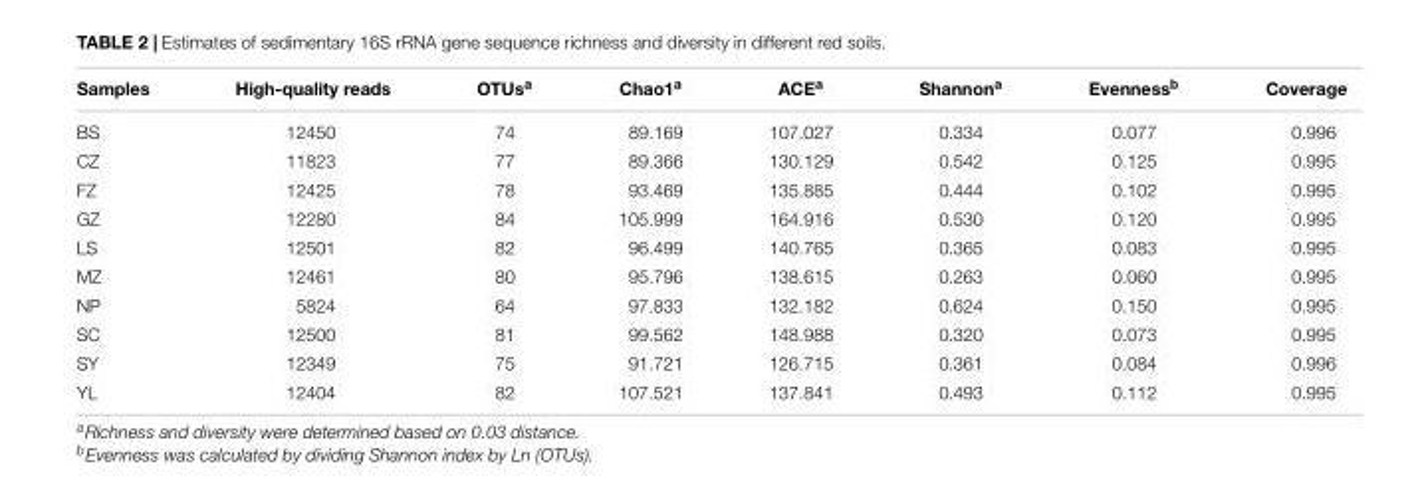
<table><thead><tr><td>Samples</td><td>High-quality reads</td><td>OTUs<sup>a</sup></td><td>Chao1<sup>a</sup></td><td>ACE<sup>a</sup></td><td>Shannon<sup>a</sup></td><td>Evenness<sup>b</sup></td><td>Coverage</td></tr></thead><tbody><tr><td>BS</td><td>12450</td><td>74</td><td>89.169</td><td>107.027</td><td>0.334</td><td>0.077</td><td>0.996</td></tr><tr><td>CZ</td><td>11823</td><td>77</td><td>89.366</td><td>130.129</td><td>0.542</td><td>0.125</td><td>0.995</td></tr><tr><td>FZ</td><td>12425</td><td>78</td><td>93.469</td><td>135.885</td><td>0.444</td><td>0.102</td><td>0.995</td></tr><tr><td>GZ</td><td>12280</td><td>84</td><td>105.999</td><td>164.916</td><td>0.530</td><td>0.120</td><td>0.995</td></tr><tr><td>LS</td><td>12501</td><td>82</td><td>96.499</td><td>140.765</td><td>0.365</td><td>0.083</td><td>0.995</td></tr><tr><td>MZ</td><td>12461</td><td>80</td><td>95.796</td><td>138.615</td><td>0.263</td><td>0.060</td><td>0.995</td></tr><tr><td>NP</td><td>5824</td><td>64</td><td>97.833</td><td>132.182</td><td>0.624</td><td>0.150</td><td>0.995</td></tr><tr><td>SC</td><td>12500</td><td>81</td><td>99.562</td><td>148.988</td><td>0.320</td><td>0.073</td><td>0.995</td></tr><tr><td>SY</td><td>12349</td><td>75</td><td>91.721</td><td>126.715</td><td>0.361</td><td>0.084</td><td>0.996</td></tr><tr><td>YL</td><td>12404</td><td>82</td><td>107.521</td><td>137.841</td><td>0.493</td><td>0.112</td><td>0.995</td></tr></tbody></table>